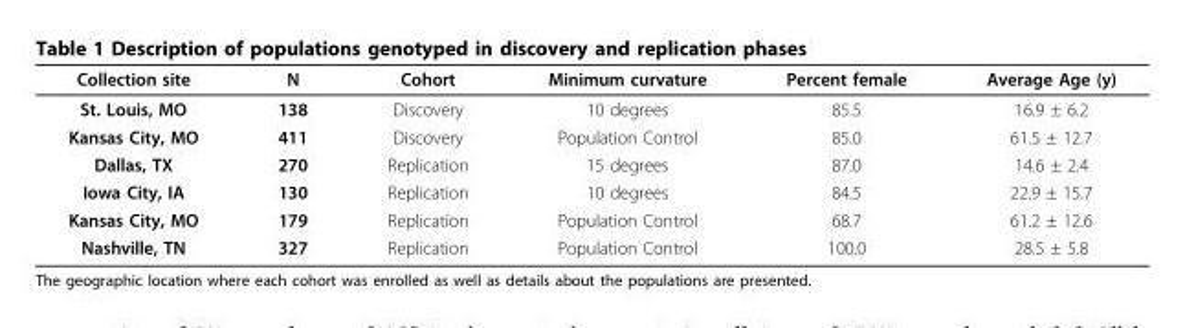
<table><thead><tr><td>Collection site</td><td>N</td><td>Cohort</td><td>Minimum curvature</td><td>Percent female</td><td>Average Age (y)</td></tr></thead><tbody><tr><td>St. Louis, MO</td><td>138</td><td>Discovery</td><td>10 degrees</td><td>85.5</td><td>16.9 ± 6.2</td></tr><tr><td>Kansas City, MO</td><td>411</td><td>Discovery</td><td>Population Control</td><td>85.0</td><td>61.5 ± 12.7</td></tr><tr><td>Dallas, TX</td><td>270</td><td>Replication</td><td>15 degrees</td><td>87.0</td><td>14.6 ± 2.4</td></tr><tr><td>Iowa City, IA</td><td>130</td><td>Replication</td><td>10 degrees</td><td>84.5</td><td>22.9 ± 15.7</td></tr><tr><td>Kansas City, MO</td><td>179</td><td>Replication</td><td>Population Control</td><td>68.7</td><td>61.2 ± 12.6</td></tr><tr><td>Nashville, TN</td><td>327</td><td>Replication</td><td>Population Control</td><td>100.0</td><td>28.5 ± 5.8</td></tr></tbody></table>